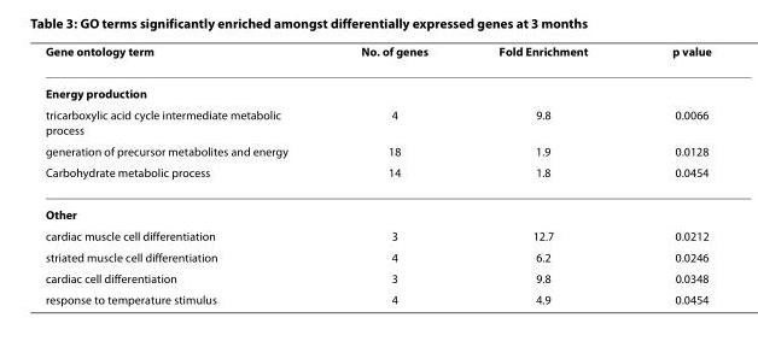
<table><thead><tr><td>Gene ontology term</td><td>No. of genes</td><td>Fold Enrichment</td><td>p value</td></tr></thead><tbody><tr><td colspan="4">Energy production</td></tr><tr><td>tricarboxylic acid cycle intermediate metabolic process</td><td>4</td><td>9.8</td><td>0.0066</td></tr><tr><td>generation of precursor metabolites and energy</td><td>18</td><td>1.9</td><td>0.0128</td></tr><tr><td>Carbohydrate metabolic process</td><td>14</td><td>1.8</td><td>0.0454</td></tr><tr><td colspan="4">Other</td></tr><tr><td>cardiac muscle cell differentiation</td><td>3</td><td>12.7</td><td>0.0212</td></tr><tr><td>striated muscle cell differentiation</td><td>4</td><td>6.2</td><td>0.0246</td></tr><tr><td>cardiac cell differentiation</td><td>3</td><td>9.8</td><td>0.0348</td></tr><tr><td>response to temperature stimulus</td><td>4</td><td>4.9</td><td>0.0454</td></tr></tbody></table>